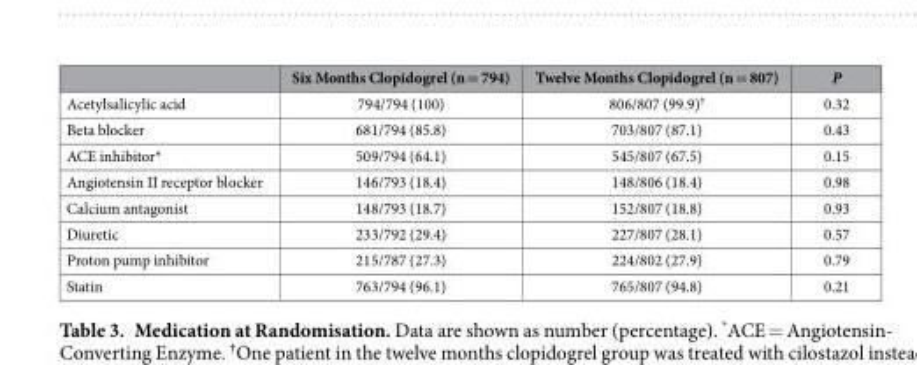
<table><thead><tr><td></td><td>Six Months Clopidogrel (n = 794)</td><td>Twelve Months Clopidogrel (n = 807)</td><td>P</td></tr></thead><tbody><tr><td>Acetylsalicylic acid</td><td>794/794 (100)</td><td>806/807 (99.9)†</td><td>0.32</td></tr><tr><td>Beta blocker</td><td>681/794 (85.8)</td><td>703/807 (87.1)</td><td>0.43</td></tr><tr><td>ACE inhibitor*</td><td>509/794 (64.1)</td><td>545/807 (67.5)</td><td>0.15</td></tr><tr><td>Angiotensin II receptor blocker</td><td>146/793 (18.4)</td><td>148/806 (18.4)</td><td>0.98</td></tr><tr><td>Calcium antagonist</td><td>148/793 (18.7)</td><td>152/807 (18.8)</td><td>0.93</td></tr><tr><td>Diuretic</td><td>233/792 (29.4)</td><td>227/807 (28.1)</td><td>0.57</td></tr><tr><td>Proton pump inhibitor</td><td>215/787 (27.3)</td><td>224/802 (27.9)</td><td>0.79</td></tr><tr><td>Statin</td><td>763/794 (96.1)</td><td>765/807 (94.8)</td><td>0.21</td></tr></tbody></table>